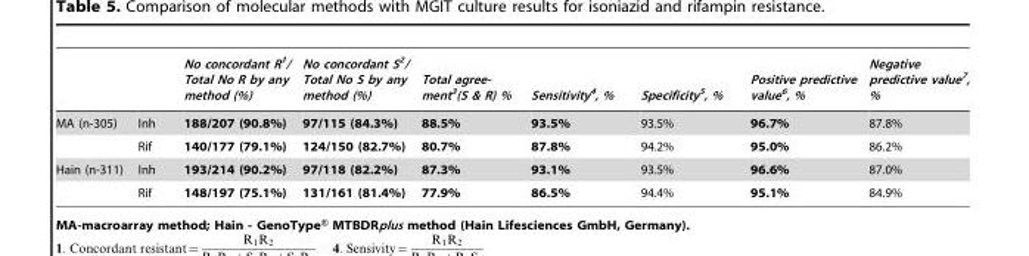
<table><thead><tr><td></td><td></td><td>No concordant R<sup>1</sup>/ Total No R by any method (%)</td><td>No concordant S<sup>2</sup>/ Total No S by any method (%)</td><td>Total agree- ment<sup>3</sup>(S &amp; R) %</td><td>Sensitivity<sup>4</sup>, %</td><td>Specificity<sup>5</sup>, %</td><td>Positive predictive value<sup>6</sup>, %</td><td>Negative predictive value<sup>7</sup>, %</td></tr></thead><tbody><tr><td rowspan="2">MA (n-305)</td><td>Inh</td><td>188/207 (90.8%)</td><td>97/115 (84.3%)</td><td>88.5%</td><td>93.5%</td><td>93.5%</td><td>96.7%</td><td>87.8%</td></tr><tr><td>Rif</td><td>140/177 (79.1%)</td><td>124/150 (82.7%)</td><td>80.7%</td><td>87.8%</td><td>94.2%</td><td>95.0%</td><td>86.2%</td></tr><tr><td rowspan="2">Hain (n-311)</td><td>Inh</td><td>193/214 (90.2%)</td><td>97/118 (82.2%)</td><td>87.3%</td><td>93.1%</td><td>93.5%</td><td>96.6%</td><td>87.0%</td></tr><tr><td>Rif</td><td>148/197 (75.1%)</td><td>131/161 (81.4%)</td><td>77.9%</td><td>86.5%</td><td>94.4%</td><td>95.1%</td><td>84.9%</td></tr></tbody></table>